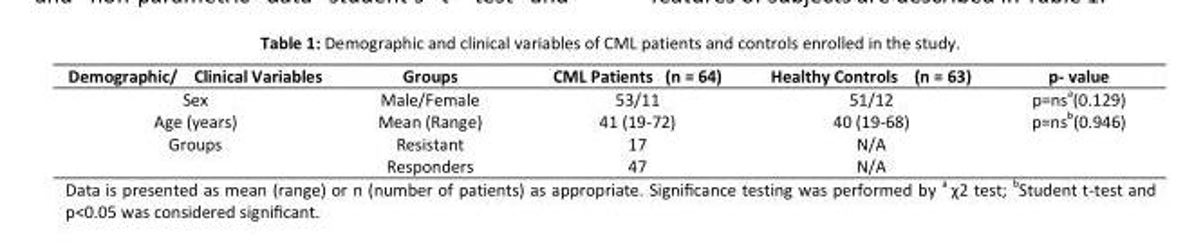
<table><thead><tr><td>Demographic/ Clinical Variables</td><td>Groups</td><td>CML Patients (n = 64)</td><td>Healthy Controls (n = 63)</td><td>p- value</td></tr></thead><tbody><tr><td>Sex</td><td>Male/Female</td><td>53/11</td><td>51/12</td><td>p=ns<sup>a</sup>(0.129)</td></tr><tr><td>Age (years)</td><td>Mean (Range)</td><td>41 (19-72)</td><td>40 (19-68)</td><td>p=ns<sup>b</sup>(0.946)</td></tr><tr><td rowspan="2">Groups</td><td>Resistant</td><td>17</td><td>N/A</td><td></td></tr><tr><td>Responders</td><td>47</td><td>N/A</td><td></td></tr></tbody></table>